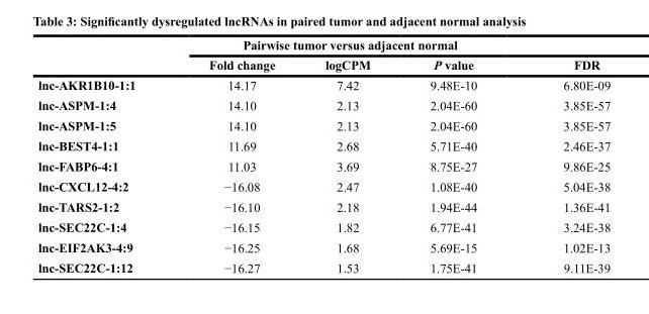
<table><thead><tr><td colspan="5">Pairwise tumor versus adjacent normal</td></tr><tr><td></td><td>Fold change</td><td>logCPM</td><td>P value</td><td>FDR</td></tr></thead><tbody><tr><td>lnc-AKR1B10-1:1</td><td>14.17</td><td>7.42</td><td>9.48E-10</td><td>6.80E-09</td></tr><tr><td>lnc-ASPM-1:4</td><td>14.10</td><td>2.13</td><td>2.04E-60</td><td>3.85E-57</td></tr><tr><td>lnc-ASPM-1:5</td><td>14.10</td><td>2.13</td><td>2.04E-60</td><td>3.85E-57</td></tr><tr><td>lnc-BEST4-1:1</td><td>11.69</td><td>2.68</td><td>5.71E-40</td><td>2.46E-37</td></tr><tr><td>lnc-FABP6-4:1</td><td>11.03</td><td>3.69</td><td>8.75E-27</td><td>9.86E-25</td></tr><tr><td>lnc-CXCL12-4:2</td><td>−16.08</td><td>2.47</td><td>1.08E-40</td><td>5.04E-38</td></tr><tr><td>lnc-TARS2-1:2</td><td>−16.10</td><td>2.18</td><td>1.94E-44</td><td>1.36E-41</td></tr><tr><td>lnc-SEC22C-1:4</td><td>−16.15</td><td>1.82</td><td>6.77E-41</td><td>3.24E-38</td></tr><tr><td>lnc-EIF2AK3-4:9</td><td>−16.25</td><td>1.68</td><td>5.69E-15</td><td>1.02E-13</td></tr><tr><td>lnc-SEC22C-1:12</td><td>−16.27</td><td>1.53</td><td>1.75E-41</td><td>9.11E-39</td></tr></tbody></table>